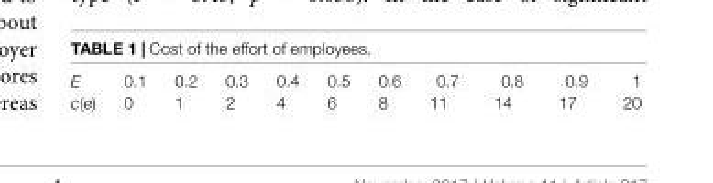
<table><tbody><tr><td>E</td><td>0.1</td><td>0.2</td><td>0.3</td><td>0.4</td><td>0.5</td><td>0.6</td><td>0.7</td><td>0.8</td><td>0.9</td><td>1</td></tr><tr><td>c(e)</td><td>0</td><td>1</td><td>2</td><td>4</td><td>6</td><td>8</td><td>11</td><td>14</td><td>17</td><td>20</td></tr></tbody></table>